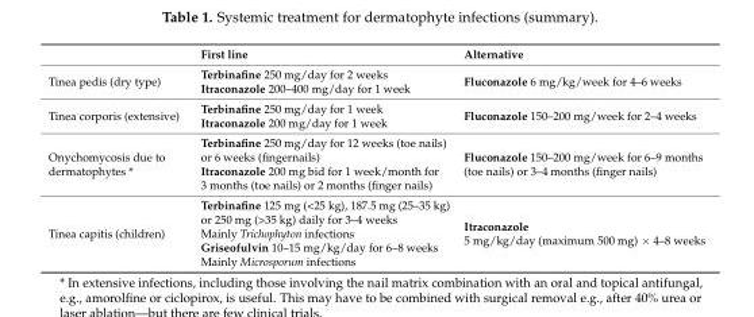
<table><thead><tr><td></td><td>First line</td><td>Alternative</td></tr></thead><tbody><tr><td>Tinea pedis (dry type)</td><td>Terbinafine 250 mg/day for 2 weeks Itraconazole 200–400 mg/day for 1 week</td><td>Fluconazole 6 mg/kg/week for 4–6 weeks</td></tr><tr><td>Tinea corporis (extensive)</td><td>Terbinafine 250 mg/day for 1 week Itraconazole 200 mg/day for 1 week</td><td>Fluconazole 150–200 mg/week for 2–4 weeks</td></tr><tr><td>Onychomycosis due to dermatophytes *</td><td>Terbinafine 250 mg/day for 12 weeks (toe nails) or 6 weeks (fingernails) Itraconazole 200 mg bid for 1 week/month for 3 months (toe nails) or 2 months (finger nails)</td><td>Fluconazole 150–200 mg/week for 6–9 months (toe nails) or 3–4 months (finger nails)</td></tr><tr><td>Tinea capitis (children)</td><td>Terbinafine 125 mg (&lt;25 kg), 187.5 mg (25–35 kg) or 250 mg (&gt;35 kg) daily for 3–4 weeks Mainly Trichophyton infections Griseofulvin 10–15 mg/kg/day for 6–8 weeks Mainly Microsporum infections</td><td>Itraconazole 5 mg/kg/day (maximum 500 mg) × 4–8 weeks</td></tr></tbody></table>